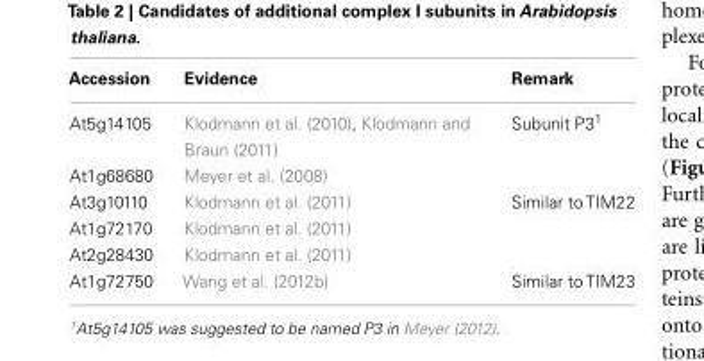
<table><thead><tr><td>Accession</td><td>Evidence</td><td>Remark</td></tr></thead><tbody><tr><td>At5g14105</td><td>Klodmann et al. (2010), Klodmann and Braun (2011)</td><td>Subunit P3<sup>1</sup></td></tr><tr><td>At1g68680</td><td>Meyer et al. (2008)</td><td></td></tr><tr><td>At3g10110</td><td>Klodmann et al. (2011)</td><td>Similar to TIM22</td></tr><tr><td>At1g72170</td><td>Klodmann et al. (2011)</td><td></td></tr><tr><td>At2g28430</td><td>Klodmann et al. (2011)</td><td></td></tr><tr><td>At1g72750</td><td>Wang et al. (2012b)</td><td>Similar to TIM23</td></tr></tbody></table>